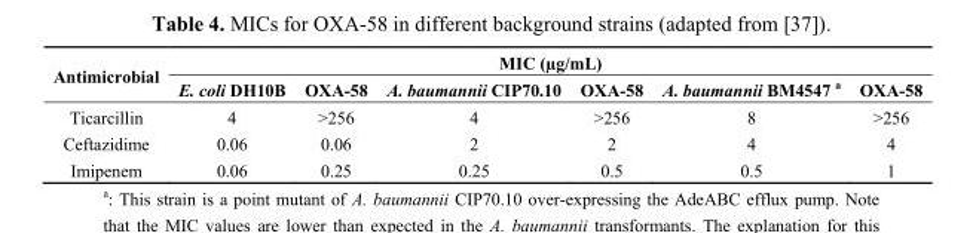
<table><thead><tr><td rowspan="2">Antimicrobial</td><td colspan="6">MIC (µg/mL)</td></tr><tr><td>E. coli DH10B</td><td>OXA-58</td><td>A. baumannii CIP70.10</td><td>OXA-58</td><td>A. baumannii BM4547 <sup>a</sup></td><td>OXA-58</td></tr></thead><tbody><tr><td>Ticarcillin</td><td>4</td><td>&gt;256</td><td>4</td><td>&gt;256</td><td>8</td><td>&gt;256</td></tr><tr><td>Ceftazidime</td><td>0.06</td><td>0.06</td><td>2</td><td>2</td><td>4</td><td>4</td></tr><tr><td>Imipenem</td><td>0.06</td><td>0.25</td><td>0.25</td><td>0.5</td><td>0.5</td><td>1</td></tr></tbody></table>